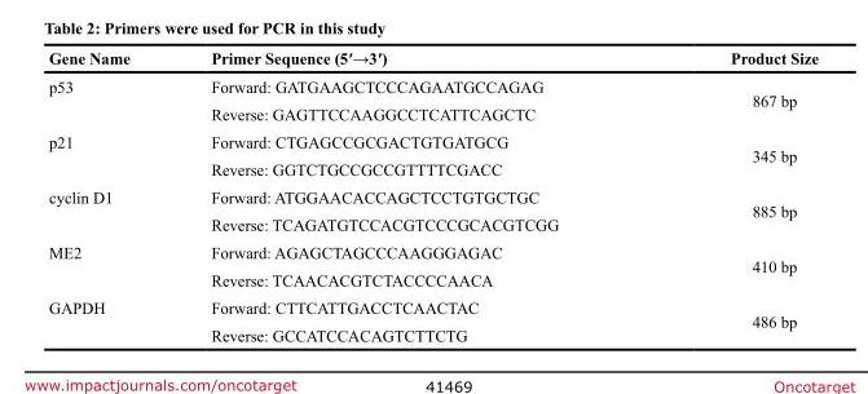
<table><thead><tr><td>Gene Name</td><td>Primer Sequence (5′→3′)</td><td>Product Size</td></tr></thead><tbody><tr><td rowspan="2">p53</td><td>Forward: GATGAAGCTCCCAGAATGCCAGAG</td><td rowspan="2">867 bp</td></tr><tr><td>Reverse: GAGTTCCAAGGCCTCATTCAGCTC</td></tr><tr><td rowspan="2">p21</td><td>Forward: CTGAGCCGCGACTGTGATGCG</td><td rowspan="2">345 bp</td></tr><tr><td>Reverse: GGTCTGCCGCCGTTTTCGACC</td></tr><tr><td rowspan="2">cyclin D1</td><td>Forward: ATGGAACACCAGCTCCTGTGCTGC</td><td rowspan="2">885 bp</td></tr><tr><td>Reverse: TCAGATGTCCACGTCCCGCACGTCGG</td></tr><tr><td rowspan="2">ME2</td><td>Forward: AGAGCTAGCCCAAGGGAGAC</td><td rowspan="2">410 bp</td></tr><tr><td>Reverse: TCAACACGTCTACCCCAACA</td></tr><tr><td rowspan="2">GAPDH</td><td>Forward: CTTCATTGACCTCAACTAC</td><td rowspan="2">486 bp</td></tr><tr><td>Reverse: GCCATCCACAGTCTTCTG</td></tr></tbody></table>